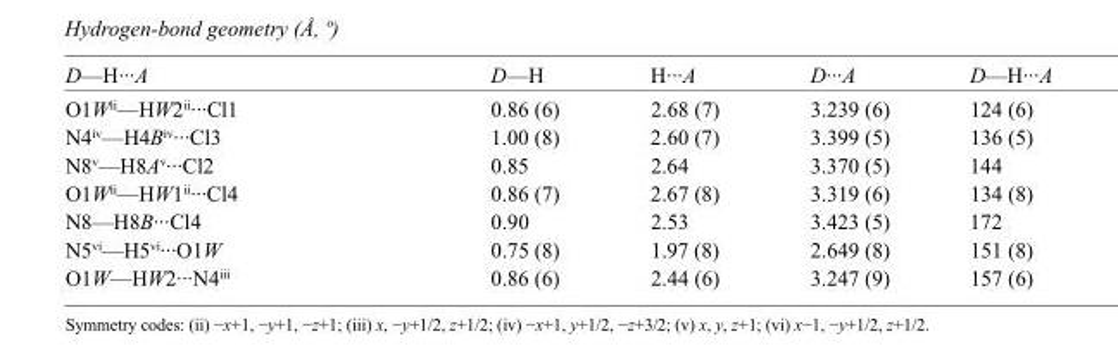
<table><tbody><tr><td>D—H···A</td><td>D—H</td><td>H···A</td><td>D···A</td><td>D—H···A</td></tr><tr><td>O1W<sup>ii</sup>—HW2<sup>ii</sup>···Cl1</td><td>0.86 (6)</td><td>2.68 (7)</td><td>3.239 (6)</td><td>124 (6)</td></tr><tr><td>N4<sup>iv</sup>—H4B<sup>iv</sup>···Cl3</td><td>1.00 (8)</td><td>2.60 (7)</td><td>3.399 (5)</td><td>136 (5)</td></tr><tr><td>N8<sup>v</sup>—H8A<sup>v</sup>···Cl2</td><td>0.85</td><td>2.64</td><td>3.370 (5)</td><td>144</td></tr><tr><td>O1W<sup>ii</sup>—HW1<sup>ii</sup>···Cl4</td><td>0.86 (7)</td><td>2.67 (8)</td><td>3.319 (6)</td><td>134 (8)</td></tr><tr><td>N8—H8B···Cl4</td><td>0.90</td><td>2.53</td><td>3.423 (5)</td><td>172</td></tr><tr><td>N5<sup>vi</sup>—H5<sup>vi</sup>···O1W</td><td>0.75 (8)</td><td>1.97 (8)</td><td>2.649 (8)</td><td>151 (8)</td></tr><tr><td>O1W—HW2···N4<sup>iii</sup></td><td>0.86 (6)</td><td>2.44 (6)</td><td>3.247 (9)</td><td>157 (6)</td></tr></tbody></table>